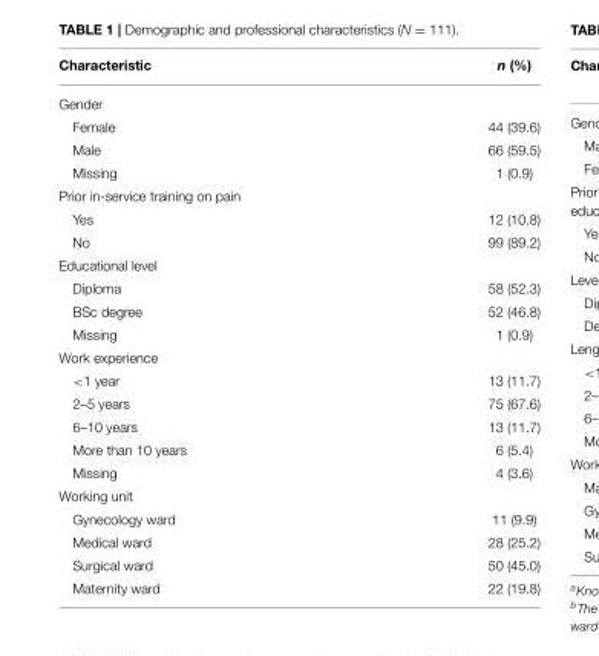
<table><thead><tr><td>Characteristic</td><td>n (%)</td></tr></thead><tbody><tr><td colspan="2">Gender</td></tr><tr><td>Female</td><td>44 (39.6)</td></tr><tr><td>Male</td><td>66 (59.5)</td></tr><tr><td>Missing</td><td>1 (0.9)</td></tr><tr><td colspan="2">Prior in-service training on pain</td></tr><tr><td>Yes</td><td>12 (10.8)</td></tr><tr><td>No</td><td>99 (89.2)</td></tr><tr><td colspan="2">Educational level</td></tr><tr><td>Diploma</td><td>58 (52.3)</td></tr><tr><td>BSc degree</td><td>52 (46.8)</td></tr><tr><td>Missing</td><td>1 (0.9)</td></tr><tr><td colspan="2">Work experience</td></tr><tr><td>&lt;1 year</td><td>13 (11.7)</td></tr><tr><td>2–5 years</td><td>75 (67.6)</td></tr><tr><td>6–10 years</td><td>13 (11.7)</td></tr><tr><td>More than 10 years</td><td>6 (5.4)</td></tr><tr><td>Missing</td><td>4 (3.6)</td></tr><tr><td colspan="2">Working unit</td></tr><tr><td>Gynecology ward</td><td>11 (9.9)</td></tr><tr><td>Medical ward</td><td>28 (25.2)</td></tr><tr><td>Surgical ward</td><td>50 (45.0)</td></tr><tr><td>Maternity ward</td><td>22 (19.8)</td></tr></tbody></table>